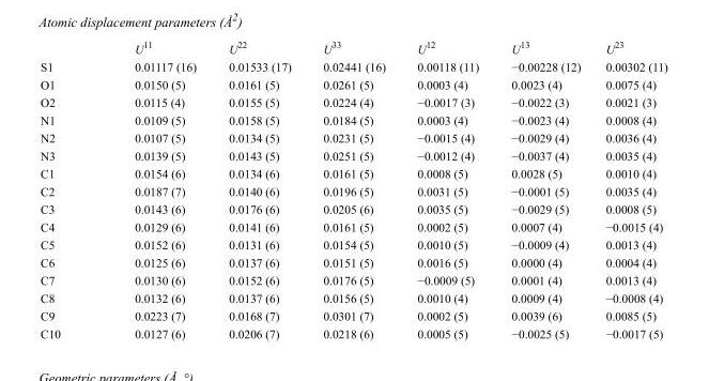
<table><thead><tr><td></td><td>U<sup>11</sup></td><td>U<sup>22</sup></td><td>U<sup>33</sup></td><td>U<sup>12</sup></td><td>U<sup>13</sup></td><td>U<sup>23</sup></td></tr></thead><tbody><tr><td>S1</td><td>0.01117 (16)</td><td>0.01533 (17)</td><td>0.02441 (16)</td><td>0.00118 (11)</td><td>−0.00228 (12)</td><td>0.00302 (11)</td></tr><tr><td>O1</td><td>0.0150 (5)</td><td>0.0161 (5)</td><td>0.0261 (5)</td><td>0.0003 (4)</td><td>0.0023 (4)</td><td>0.0075 (4)</td></tr><tr><td>O2</td><td>0.0115 (4)</td><td>0.0155 (5)</td><td>0.0224 (4)</td><td>−0.0017 (3)</td><td>−0.0022 (3)</td><td>0.0021 (3)</td></tr><tr><td>N1</td><td>0.0109 (5)</td><td>0.0158 (5)</td><td>0.0184 (5)</td><td>0.0003 (4)</td><td>−0.0023 (4)</td><td>0.0008 (4)</td></tr><tr><td>N2</td><td>0.0107 (5)</td><td>0.0134 (5)</td><td>0.0231 (5)</td><td>−0.0015 (4)</td><td>−0.0029 (4)</td><td>0.0036 (4)</td></tr><tr><td>N3</td><td>0.0139 (5)</td><td>0.0143 (5)</td><td>0.0251 (5)</td><td>−0.0012 (4)</td><td>−0.0037 (4)</td><td>0.0035 (4)</td></tr><tr><td>C1</td><td>0.0154 (6)</td><td>0.0134 (6)</td><td>0.0161 (5)</td><td>0.0008 (5)</td><td>0.0028 (5)</td><td>0.0010 (4)</td></tr><tr><td>C2</td><td>0.0187 (7)</td><td>0.0140 (6)</td><td>0.0196 (5)</td><td>0.0031 (5)</td><td>−0.0001 (5)</td><td>0.0035 (4)</td></tr><tr><td>C3</td><td>0.0143 (6)</td><td>0.0176 (6)</td><td>0.0205 (6)</td><td>0.0035 (5)</td><td>−0.0029 (5)</td><td>0.0008 (5)</td></tr><tr><td>C4</td><td>0.0129 (6)</td><td>0.0141 (6)</td><td>0.0161 (5)</td><td>0.0002 (5)</td><td>0.0007 (4)</td><td>−0.0015 (4)</td></tr><tr><td>C5</td><td>0.0152 (6)</td><td>0.0131 (6)</td><td>0.0154 (5)</td><td>0.0010 (5)</td><td>−0.0009 (4)</td><td>0.0013 (4)</td></tr><tr><td>C6</td><td>0.0125 (6)</td><td>0.0137 (6)</td><td>0.0151 (5)</td><td>0.0016 (5)</td><td>0.0000 (4)</td><td>0.0004 (4)</td></tr><tr><td>C7</td><td>0.0130 (6)</td><td>0.0152 (6)</td><td>0.0176 (5)</td><td>−0.0009 (5)</td><td>0.0001 (4)</td><td>0.0013 (4)</td></tr><tr><td>C8</td><td>0.0132 (6)</td><td>0.0137 (6)</td><td>0.0156 (5)</td><td>0.0010 (4)</td><td>0.0009 (4)</td><td>−0.0008 (4)</td></tr><tr><td>C9</td><td>0.0223 (7)</td><td>0.0168 (7)</td><td>0.0301 (7)</td><td>0.0002 (5)</td><td>0.0039 (6)</td><td>0.0085 (5)</td></tr><tr><td>C10</td><td>0.0127 (6)</td><td>0.0206 (7)</td><td>0.0218 (6)</td><td>0.0005 (5)</td><td>−0.0025 (5)</td><td>−0.0017 (5)</td></tr></tbody></table>